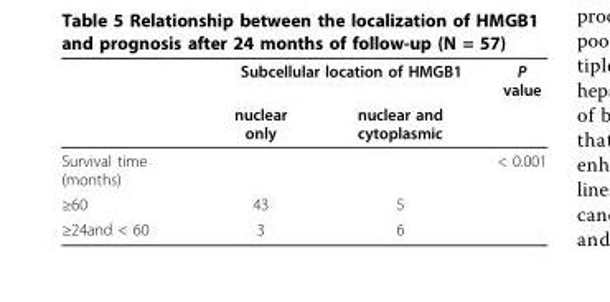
<table><thead><tr><td rowspan="2"></td><td colspan="2">Subcellular location of HMGB1</td><td rowspan="2">P value</td></tr><tr><td>nuclear only</td><td>nuclear and cytoplasmic</td></tr></thead><tbody><tr><td>Survival time (months)</td><td></td><td></td><td>&lt; 0.001</td></tr><tr><td>≥60</td><td>43</td><td>5</td><td></td></tr><tr><td>≥24and &lt; 60</td><td>3</td><td>6</td><td></td></tr></tbody></table>